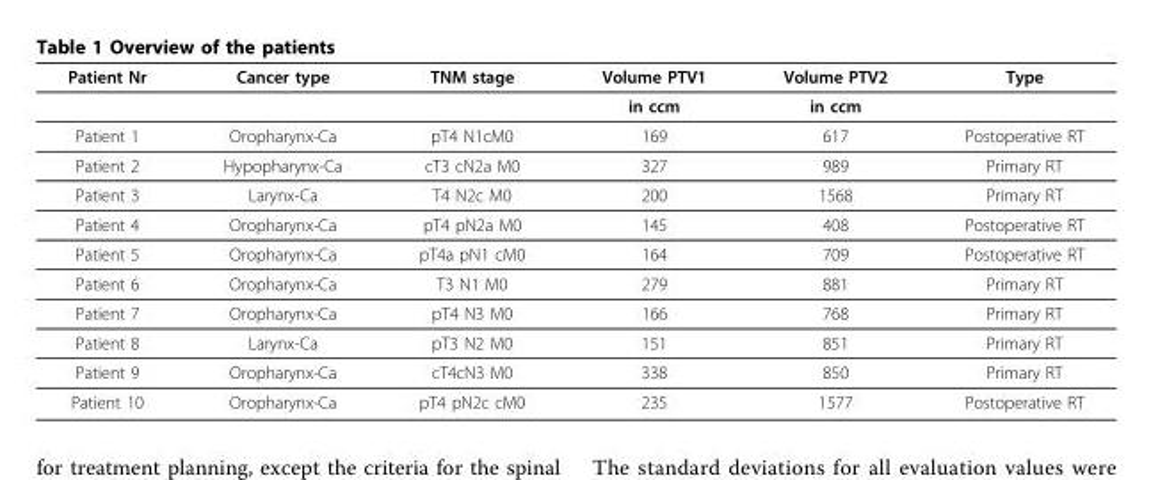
<table><thead><tr><td>Patient Nr</td><td>Cancer type</td><td>TNM stage</td><td>Volume PTV1</td><td>Volume PTV2</td><td>Type</td></tr></thead><tbody><tr><td></td><td></td><td></td><td>in ccm</td><td>in ccm</td><td></td></tr><tr><td>Patient 1</td><td>Oropharynx-Ca</td><td>pT4 N1cM0</td><td>169</td><td>617</td><td>Postoperative RT</td></tr><tr><td>Patient 2</td><td>Hypopharynx-Ca</td><td>cT3 cN2a M0</td><td>327</td><td>989</td><td>Primary RT</td></tr><tr><td>Patient 3</td><td>Larynx-Ca</td><td>T4 N2c M0</td><td>200</td><td>1568</td><td>Primary RT</td></tr><tr><td>Patient 4</td><td>Oropharynx-Ca</td><td>pT4 pN2a M0</td><td>145</td><td>408</td><td>Postoperative RT</td></tr><tr><td>Patient 5</td><td>Oropharynx-Ca</td><td>pT4a pN1 cM0</td><td>164</td><td>709</td><td>Postoperative RT</td></tr><tr><td>Patient 6</td><td>Oropharynx-Ca</td><td>T3 N1 M0</td><td>279</td><td>881</td><td>Primary RT</td></tr><tr><td>Patient 7</td><td>Oropharynx-Ca</td><td>pT4 N3 M0</td><td>166</td><td>768</td><td>Primary RT</td></tr><tr><td>Patient 8</td><td>Larynx-Ca</td><td>pT3 N2 M0</td><td>151</td><td>851</td><td>Primary RT</td></tr><tr><td>Patient 9</td><td>Oropharynx-Ca</td><td>cT4cN3 M0</td><td>338</td><td>850</td><td>Primary RT</td></tr><tr><td>Patient 10</td><td>Oropharynx-Ca</td><td>pT4 pN2c cM0</td><td>235</td><td>1577</td><td>Postoperative RT</td></tr></tbody></table>